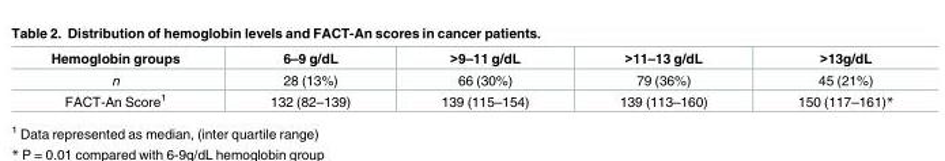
<table><thead><tr><td>Hemoglobin groups</td><td>6–9 g/dL</td><td>&gt;9–11 g/dL</td><td>&gt;11–13 g/dL</td><td>&gt;13g/dL</td></tr></thead><tbody><tr><td>n</td><td>28 (13%)</td><td>66 (30%)</td><td>79 (36%)</td><td>45 (21%)</td></tr><tr><td>FACT-An Score<sup>1</sup></td><td>132 (82–139)</td><td>139 (115–154)</td><td>139 (113–160)</td><td>150 (117–161)*</td></tr></tbody></table>